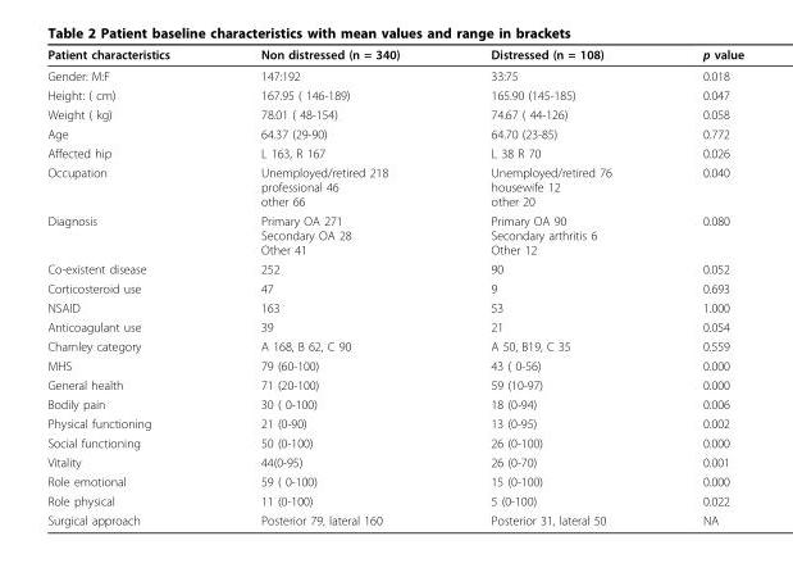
<table><thead><tr><td>Patient characteristics</td><td>Non distressed (n = 340)</td><td>Distressed (n = 108)</td><td>p value</td></tr></thead><tbody><tr><td>Gender: M:F</td><td>147:192</td><td>33:75</td><td>0.018</td></tr><tr><td>Height: ( cm)</td><td>167.95 ( 146-189)</td><td>165.90 (145-185)</td><td>0.047</td></tr><tr><td>Weight ( kg)</td><td>78.01 ( 48-154)</td><td>74.67 ( 44-126)</td><td>0.058</td></tr><tr><td>Age</td><td>64.37 (29-90)</td><td>64.70 (23-85)</td><td>0.772</td></tr><tr><td>Affected hip</td><td>L 163, R 167</td><td>L 38 R 70</td><td>0.026</td></tr><tr><td>Occupation</td><td>Unemployed/retired 218 professional 46 other 66</td><td>Unemployed/retired 76 housewife 12 other 20</td><td>0.040</td></tr><tr><td>Diagnosis</td><td>Primary OA 271 Secondary OA 28 Other 41</td><td>Primary OA 90 Secondary arthritis 6 Other 12</td><td>0.080</td></tr><tr><td>Co-existent disease</td><td>252</td><td>90</td><td>0.052</td></tr><tr><td>Corticosteroid use</td><td>47</td><td>9</td><td>0.693</td></tr><tr><td>NSAID</td><td>163</td><td>53</td><td>1.000</td></tr><tr><td>Anticoagulant use</td><td>39</td><td>21</td><td>0.054</td></tr><tr><td>Charnley category</td><td>A 168, B 62, C 90</td><td>A 50, B19, C 35</td><td>0.559</td></tr><tr><td>MHS</td><td>79 (60-100)</td><td>43 ( 0-56)</td><td>0.000</td></tr><tr><td>General health</td><td>71 (20-100)</td><td>59 (10-97)</td><td>0.000</td></tr><tr><td>Bodily pain</td><td>30 ( 0-100)</td><td>18 (0-94)</td><td>0.006</td></tr><tr><td>Physical functioning</td><td>21 (0-90)</td><td>13 (0-95)</td><td>0.002</td></tr><tr><td>Social functioning</td><td>50 (0-100)</td><td>26 (0-100)</td><td>0.000</td></tr><tr><td>Vitality</td><td>44(0-95)</td><td>26 (0-70)</td><td>0.001</td></tr><tr><td>Role emotional</td><td>59 ( 0-100)</td><td>15 (0-100)</td><td>0.000</td></tr><tr><td>Role physical</td><td>11 (0-100)</td><td>5 (0-100)</td><td>0.022</td></tr><tr><td>Surgical approach</td><td>Posterior 79, lateral 160</td><td>Posterior 31, lateral 50</td><td>NA</td></tr></tbody></table>